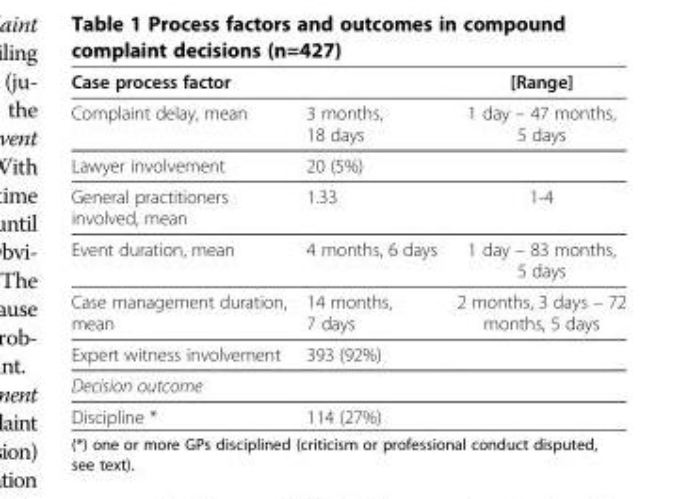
<table><thead><tr><td>Case process factor</td><td></td><td>[Range]</td></tr></thead><tbody><tr><td>Complaint delay, mean</td><td>3 months, 18 days</td><td>1 day – 47 months, 5 days</td></tr><tr><td>Lawyer involvement</td><td>20 (5%)</td><td></td></tr><tr><td>General practitioners involved, mean</td><td>1.33</td><td>1-4</td></tr><tr><td>Event duration, mean</td><td>4 months, 6 days</td><td>1 day – 83 months, 5 days</td></tr><tr><td>Case management duration, mean</td><td>14 months, 7 days</td><td>2 months, 3 days – 72 months, 5 days</td></tr><tr><td>Expert witness involvement</td><td>393 (92%)</td><td></td></tr><tr><td colspan="3">Decision outcome</td></tr><tr><td>Discipline *</td><td>114 (27%)</td><td></td></tr></tbody></table>